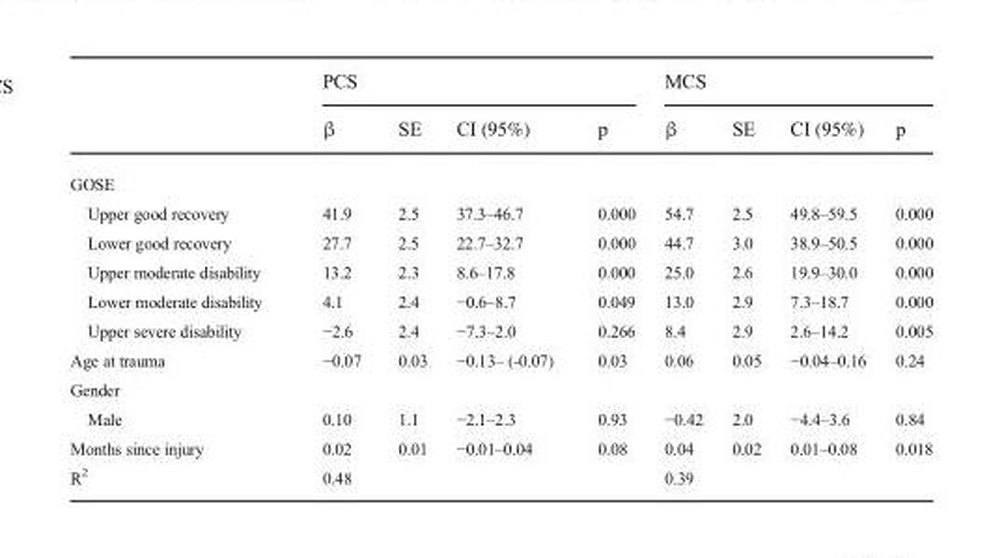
<table><thead><tr><td rowspan="2"></td><td colspan="4">PCS</td><td colspan="4">MCS</td></tr><tr><td>β</td><td>SE</td><td>CI (95%)</td><td>p</td><td>β</td><td>SE</td><td>CI (95%)</td><td>p</td></tr></thead><tbody><tr><td colspan="9">GOSE</td></tr><tr><td>Upper good recovery</td><td>41.9</td><td>2.5</td><td>37.3–46.7</td><td>0.000</td><td>54.7</td><td>2.5</td><td>49.8–59.5</td><td>0.000</td></tr><tr><td>Lower good recovery</td><td>27.7</td><td>2.5</td><td>22.7–32.7</td><td>0.000</td><td>44.7</td><td>3.0</td><td>38.9–50.5</td><td>0.000</td></tr><tr><td>Upper moderate disability</td><td>13.2</td><td>2.3</td><td>8.6–17.8</td><td>0.000</td><td>25.0</td><td>2.6</td><td>19.9–30.0</td><td>0.000</td></tr><tr><td>Lower moderate disability</td><td>4.1</td><td>2.4</td><td>−0.6–8.7</td><td>0.049</td><td>13.0</td><td>2.9</td><td>7.3–18.7</td><td>0.000</td></tr><tr><td>Upper severe disability</td><td>−2.6</td><td>2.4</td><td>−7.3–2.0</td><td>0.266</td><td>8.4</td><td>2.9</td><td>2.6–14.2</td><td>0.005</td></tr><tr><td>Age at trauma</td><td>−0.07</td><td>0.03</td><td>−0.13– (-0.07)</td><td>0.03</td><td>0.06</td><td>0.05</td><td>−0.04–0.16</td><td>0.24</td></tr><tr><td colspan="9">Gender</td></tr><tr><td>Male</td><td>0.10</td><td>1.1</td><td>−2.1–2.3</td><td>0.93</td><td>−0.42</td><td>2.0</td><td>−4.4–3.6</td><td>0.84</td></tr><tr><td>Months since injury</td><td>0.02</td><td>0.01</td><td>−0.01–0.04</td><td>0.08</td><td>0.04</td><td>0.02</td><td>0.01–0.08</td><td>0.018</td></tr><tr><td>R<sup>2</sup></td><td colspan="4">0.48</td><td colspan="4">0.39</td></tr></tbody></table>